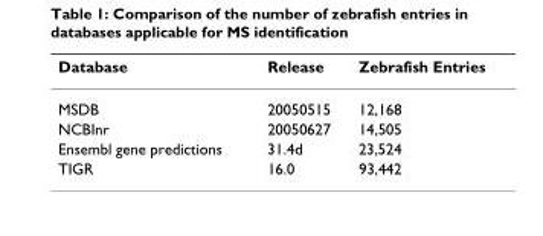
<table><thead><tr><td>Database</td><td>Release</td><td>Zebrafish Entries</td></tr></thead><tbody><tr><td>MSDB</td><td>20050515</td><td>12,168</td></tr><tr><td>NCBInr</td><td>20050627</td><td>14,505</td></tr><tr><td>Ensembl gene predictions</td><td>31.4d</td><td>23,524</td></tr><tr><td>TIGR</td><td>16.0</td><td>93,442</td></tr></tbody></table>